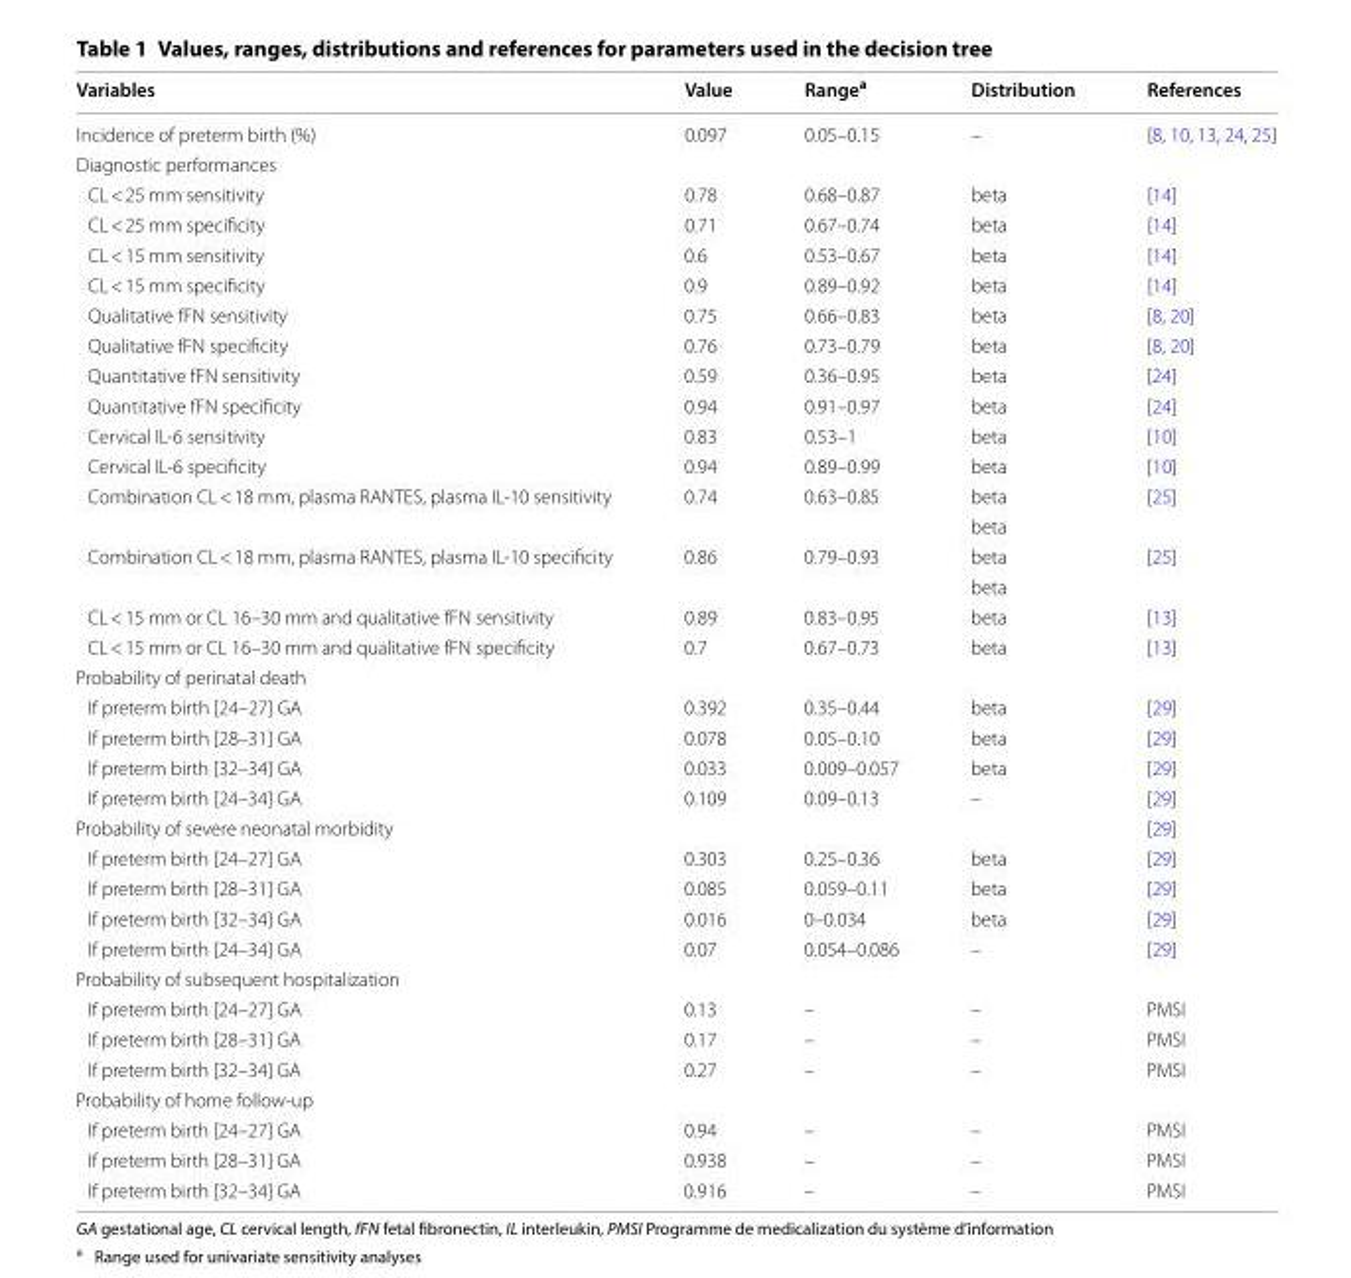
<table><thead><tr><td>Variables</td><td>Value</td><td>Range<sup>a</sup></td><td>Distribution</td><td>References</td></tr></thead><tbody><tr><td>Incidence of preterm birth (%)</td><td>0.097</td><td>0.05–0.15</td><td>–</td><td>[8, 10, 13, 24, 25]</td></tr><tr><td colspan="5">Diagnostic performances</td></tr><tr><td>CL &lt; 25 mm sensitivity</td><td>0.78</td><td>0.68–0.87</td><td>beta</td><td>[14]</td></tr><tr><td>CL &lt; 25 mm specificity</td><td>0.71</td><td>0.67–0.74</td><td>beta</td><td>[14]</td></tr><tr><td>CL &lt; 15 mm sensitivity</td><td>0.6</td><td>0.53–0.67</td><td>beta</td><td>[14]</td></tr><tr><td>CL &lt; 15 mm specificity</td><td>0.9</td><td>0.89–0.92</td><td>beta</td><td>[14]</td></tr><tr><td>Qualitative fFN sensitivity</td><td>0.75</td><td>0.66–0.83</td><td>beta</td><td>[8, 20]</td></tr><tr><td>Qualitative fFN specificity</td><td>0.76</td><td>0.73–0.79</td><td>beta</td><td>[8, 20]</td></tr><tr><td>Quantitative fFN sensitivity</td><td>0.59</td><td>0.36–0.95</td><td>beta</td><td>[24]</td></tr><tr><td>Quantitative fFN specificity</td><td>0.94</td><td>0.91–0.97</td><td>beta</td><td>[24]</td></tr><tr><td>Cervical IL-6 sensitivity</td><td>0.83</td><td>0.53–1</td><td>beta</td><td>[10]</td></tr><tr><td>Cervical IL-6 specificity</td><td>0.94</td><td>0.89–0.99</td><td>beta</td><td>[10]</td></tr><tr><td rowspan="2">Combination CL &lt; 18 mm, plasma RANTES, plasma IL-10 sensitivity</td><td rowspan="2">0.74</td><td rowspan="2">0.63–0.85</td><td>beta</td><td rowspan="2">[25]</td></tr><tr><td>beta</td></tr><tr><td rowspan="2">Combination CL &lt; 18 mm, plasma RANTES, plasma IL-10 specificity</td><td rowspan="2">0.86</td><td rowspan="2">0.79–0.93</td><td>beta</td><td rowspan="2">[25]</td></tr><tr><td>beta</td></tr><tr><td>CL &lt; 15 mm or CL 16–30 mm and qualitative fFN sensitivity</td><td>0.89</td><td>0.83–0.95</td><td>beta</td><td>[13]</td></tr><tr><td>CL &lt; 15 mm or CL 16–30 mm and qualitative fFN specificity</td><td>0.7</td><td>0.67–0.73</td><td>beta</td><td>[13]</td></tr><tr><td colspan="5">Probability of perinatal death</td></tr><tr><td>If preterm birth [24–27] GA</td><td>0.392</td><td>0.35–0.44</td><td>beta</td><td>[29]</td></tr><tr><td>If preterm birth [28–31] GA</td><td>0.078</td><td>0.05–0.10</td><td>beta</td><td>[29]</td></tr><tr><td>If preterm birth [32–34] GA</td><td>0.033</td><td>0.009–0.057</td><td>beta</td><td>[29]</td></tr><tr><td>If preterm birth [24–34] GA</td><td>0.109</td><td>0.09–0.13</td><td>–</td><td>[29]</td></tr><tr><td colspan="4">Probability of severe neonatal morbidity</td><td>[29]</td></tr><tr><td>If preterm birth [24–27] GA</td><td>0.303</td><td>0.25–0.36</td><td>beta</td><td>[29]</td></tr><tr><td>If preterm birth [28–31] GA</td><td>0.085</td><td>0.059–0.11</td><td>beta</td><td>[29]</td></tr><tr><td>If preterm birth [32–34] GA</td><td>0.016</td><td>0–0.034</td><td>beta</td><td>[29]</td></tr><tr><td>If preterm birth [24–34] GA</td><td>0.07</td><td>0.054–0.086</td><td>–</td><td>[29]</td></tr><tr><td colspan="5">Probability of subsequent hospitalization</td></tr><tr><td>If preterm birth [24–27] GA</td><td>0.13</td><td>–</td><td>–</td><td>PMSI</td></tr><tr><td>If preterm birth [28–31] GA</td><td>0.17</td><td>–</td><td>–</td><td>PMSI</td></tr><tr><td>If preterm birth [32–34] GA</td><td>0.27</td><td>–</td><td>–</td><td>PMSI</td></tr><tr><td colspan="5">Probability of home follow-up</td></tr><tr><td>If preterm birth [24–27] GA</td><td>0.94</td><td>–</td><td>–</td><td>PMSI</td></tr><tr><td>If preterm birth [28–31] GA</td><td>0.938</td><td>–</td><td>–</td><td>PMSI</td></tr><tr><td>If preterm birth [32–34] GA</td><td>0.916</td><td>–</td><td>–</td><td>PMSI</td></tr></tbody></table>